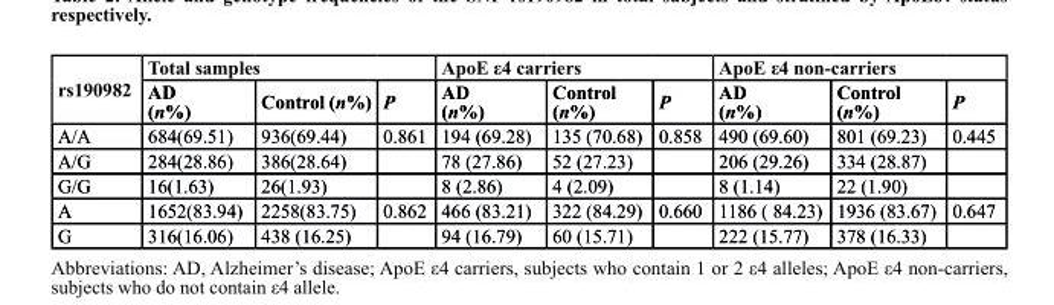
<table><thead><tr><td rowspan="2">rs190982</td><td colspan="3">total samples</td><td colspan="3">ApoE ε4 carriers</td><td colspan="3">ApoE ε4 non-carriers</td></tr><tr><td>Ad (n%)</td><td>control (n%)</td><td>P</td><td>Ad (n%)</td><td>control (n%)</td><td>P</td><td>Ad (n%)</td><td>control (n%)</td><td>P</td></tr></thead><tbody><tr><td>A/A</td><td>684(69.51)</td><td>936(69.44)</td><td>0.861</td><td>194 (69.28)</td><td>135 (70.68)</td><td>0.858</td><td>490 (69.60)</td><td>801 (69.23)</td><td>0.445</td></tr><tr><td>A/G</td><td>284(28.86)</td><td>386(28.64)</td><td></td><td>78 (27.86)</td><td>52 (27.23)</td><td></td><td>206 (29.26)</td><td>334 (28.87)</td><td></td></tr><tr><td>G/G</td><td>16(1.63)</td><td>26(1.93)</td><td></td><td>8 (2.86)</td><td>4 (2.09)</td><td></td><td>8 (1.14)</td><td>22 (1.90)</td><td></td></tr><tr><td>A</td><td>1652(83.94)</td><td>2258(83.75)</td><td>0.862</td><td>466 (83.21)</td><td>322 (84.29)</td><td>0.660</td><td>1186 ( 84.23)</td><td>1936 (83.67)</td><td>0.647</td></tr><tr><td>G</td><td>316(16.06)</td><td>438 (16.25)</td><td></td><td>94 (16.79)</td><td>60 (15.71)</td><td></td><td>222 (15.77)</td><td>378 (16.33)</td><td></td></tr></tbody></table>